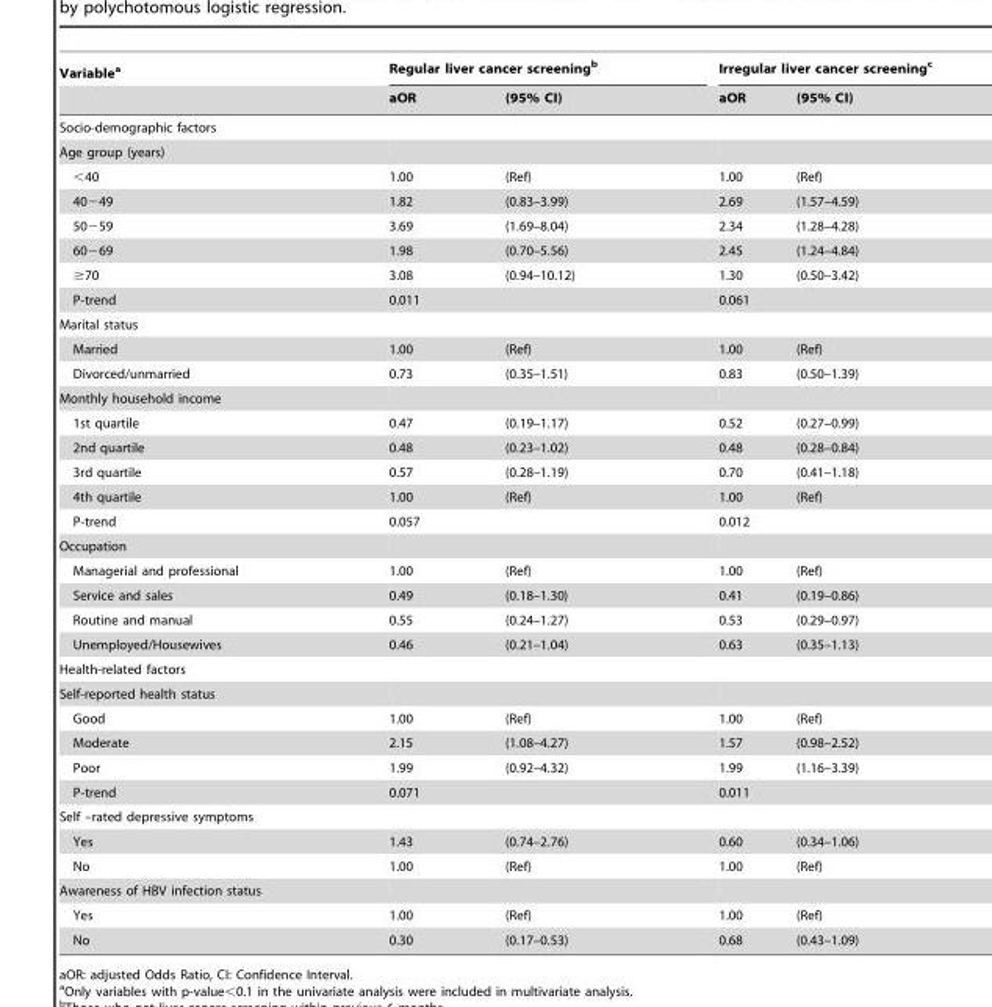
<table><thead><tr><td rowspan="2">Variable<sup>a</sup></td><td colspan="2">Regular liver cancer screening<sup>b</sup></td><td colspan="2">Irregular liver cancer screening<sup>c</sup></td></tr><tr><td>aOR</td><td>(95% CI)</td><td>aOR</td><td>(95% CI)</td></tr></thead><tbody><tr><td colspan="5">Socio-demographic factors</td></tr><tr><td colspan="5">Age group (years)</td></tr><tr><td>&lt;40</td><td>1.00</td><td>(Ref)</td><td>1.00</td><td>(Ref)</td></tr><tr><td>40−49</td><td>1.82</td><td>(0.83–3.99)</td><td>2.69</td><td>(1.57–4.59)</td></tr><tr><td>50−59</td><td>3.69</td><td>(1.69–8.04)</td><td>2.34</td><td>(1.28–4.28)</td></tr><tr><td>60−69</td><td>1.98</td><td>(0.70–5.56)</td><td>2.45</td><td>(1.24–4.84)</td></tr><tr><td>≥70</td><td>3.08</td><td>(0.94–10.12)</td><td>1.30</td><td>(0.50–3.42)</td></tr><tr><td>P-trend</td><td>0.011</td><td></td><td>0.061</td><td></td></tr><tr><td colspan="5">Marital status</td></tr><tr><td>Married</td><td>1.00</td><td>(Ref)</td><td>1.00</td><td>(Ref)</td></tr><tr><td>Divorced/unmarried</td><td>0.73</td><td>(0.35–1.51)</td><td>0.83</td><td>(0.50–1.39)</td></tr><tr><td colspan="5">Monthly household income</td></tr><tr><td>1st quartile</td><td>0.47</td><td>(0.19–1.17)</td><td>0.52</td><td>(0.27–0.99)</td></tr><tr><td>2nd quartile</td><td>0.48</td><td>(0.23–1.02)</td><td>0.48</td><td>(0.28–0.84)</td></tr><tr><td>3rd quartile</td><td>0.57</td><td>(0.28–1.19)</td><td>0.70</td><td>(0.41–1.18)</td></tr><tr><td>4th quartile</td><td>1.00</td><td>(Ref)</td><td>1.00</td><td>(Ref)</td></tr><tr><td>P-trend</td><td>0.057</td><td></td><td>0.012</td><td></td></tr><tr><td colspan="5">Occupation</td></tr><tr><td>Managerial and professional</td><td>1.00</td><td>(Ref)</td><td>1.00</td><td>(Ref)</td></tr><tr><td>Service and sales</td><td>0.49</td><td>(0.18–1.30)</td><td>0.41</td><td>(0.19–0.86)</td></tr><tr><td>Routine and manual</td><td>0.55</td><td>(0.24–1.27)</td><td>0.53</td><td>(0.29–0.97)</td></tr><tr><td>Unemployed/Housewives</td><td>0.46</td><td>(0.21–1.04)</td><td>0.63</td><td>(0.35–1.13)</td></tr><tr><td colspan="5">Health-related factors</td></tr><tr><td colspan="5">Self-reported health status</td></tr><tr><td>Good</td><td>1.00</td><td>(Ref)</td><td>1.00</td><td>(Ref)</td></tr><tr><td>Moderate</td><td>2.15</td><td>(1.08–4.27)</td><td>1.57</td><td>(0.98–2.52)</td></tr><tr><td>Poor</td><td>1.99</td><td>(0.92–4.32)</td><td>1.99</td><td>(1.16–3.39)</td></tr><tr><td>P-trend</td><td>0.071</td><td></td><td>0.011</td><td></td></tr><tr><td colspan="5">Self –rated depressive symptoms</td></tr><tr><td>Yes</td><td>1.43</td><td>(0.74–2.76)</td><td>0.60</td><td>(0.34–1.06)</td></tr><tr><td>No</td><td>1.00</td><td>(Ref)</td><td>1.00</td><td>(Ref)</td></tr><tr><td colspan="5">Awareness of HBV infection status</td></tr><tr><td>Yes</td><td>1.00</td><td>(Ref)</td><td>1.00</td><td>(Ref)</td></tr><tr><td>No</td><td>0.30</td><td>(0.17–0.53)</td><td>0.68</td><td>(0.43–1.09)</td></tr></tbody></table>